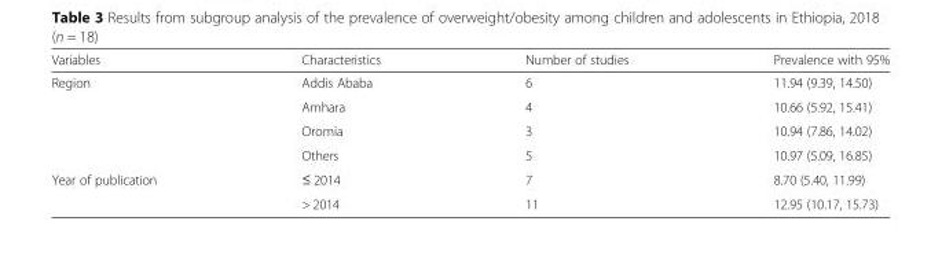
<table><thead><tr><td>Variables</td><td>Characteristics</td><td>Number of studies</td><td>Prevalence with 95%</td></tr></thead><tbody><tr><td rowspan="4">Region</td><td>Addis Ababa</td><td>6</td><td>11.94 (9.39, 14.50)</td></tr><tr><td>Amhara</td><td>4</td><td>10.66 (5.92, 15.41)</td></tr><tr><td>Oromia</td><td>3</td><td>10.94 (7.86, 14.02)</td></tr><tr><td>Others</td><td>5</td><td>10.97 (5.09, 16.85)</td></tr><tr><td rowspan="2">Year of publication</td><td>≤ 2014</td><td>7</td><td>8.70 (5.40, 11.99)</td></tr><tr><td>&gt; 2014</td><td>11</td><td>12.95 (10.17, 15.73)</td></tr></tbody></table>